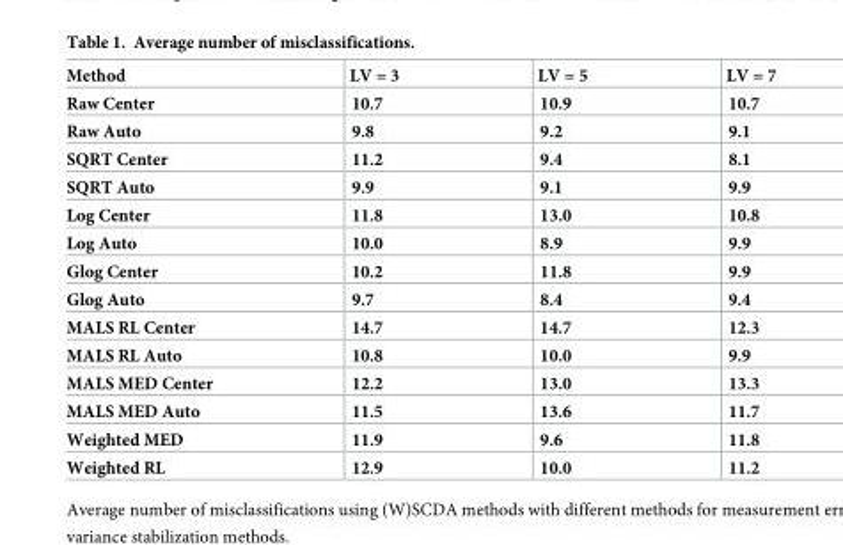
<table><thead><tr><td>Method</td><td>LV = 3</td><td>LV = 5</td><td>LV = 7</td></tr></thead><tbody><tr><td>Raw Center</td><td>10.7</td><td>10.9</td><td>10.7</td></tr><tr><td>Raw Auto</td><td>9.8</td><td>9.2</td><td>9.1</td></tr><tr><td>SQRT Center</td><td>11.2</td><td>9.4</td><td>8.1</td></tr><tr><td>SQRT Auto</td><td>9.9</td><td>9.1</td><td>9.9</td></tr><tr><td>Log Center</td><td>11.8</td><td>13.0</td><td>10.8</td></tr><tr><td>Log Auto</td><td>10.0</td><td>8.9</td><td>9.9</td></tr><tr><td>Glog Center</td><td>10.2</td><td>11.8</td><td>9.9</td></tr><tr><td>Glog Auto</td><td>9.7</td><td>8.4</td><td>9.4</td></tr><tr><td>MALS RL Center</td><td>14.7</td><td>14.7</td><td>12.3</td></tr><tr><td>MALS RL Auto</td><td>10.8</td><td>10.0</td><td>9.9</td></tr><tr><td>MALS MED Center</td><td>12.2</td><td>13.0</td><td>13.3</td></tr><tr><td>MALS MED Auto</td><td>11.5</td><td>13.6</td><td>11.7</td></tr><tr><td>Weighted MED</td><td>11.9</td><td>9.6</td><td>11.8</td></tr><tr><td>Weighted RL</td><td>12.9</td><td>10.0</td><td>11.2</td></tr></tbody></table>